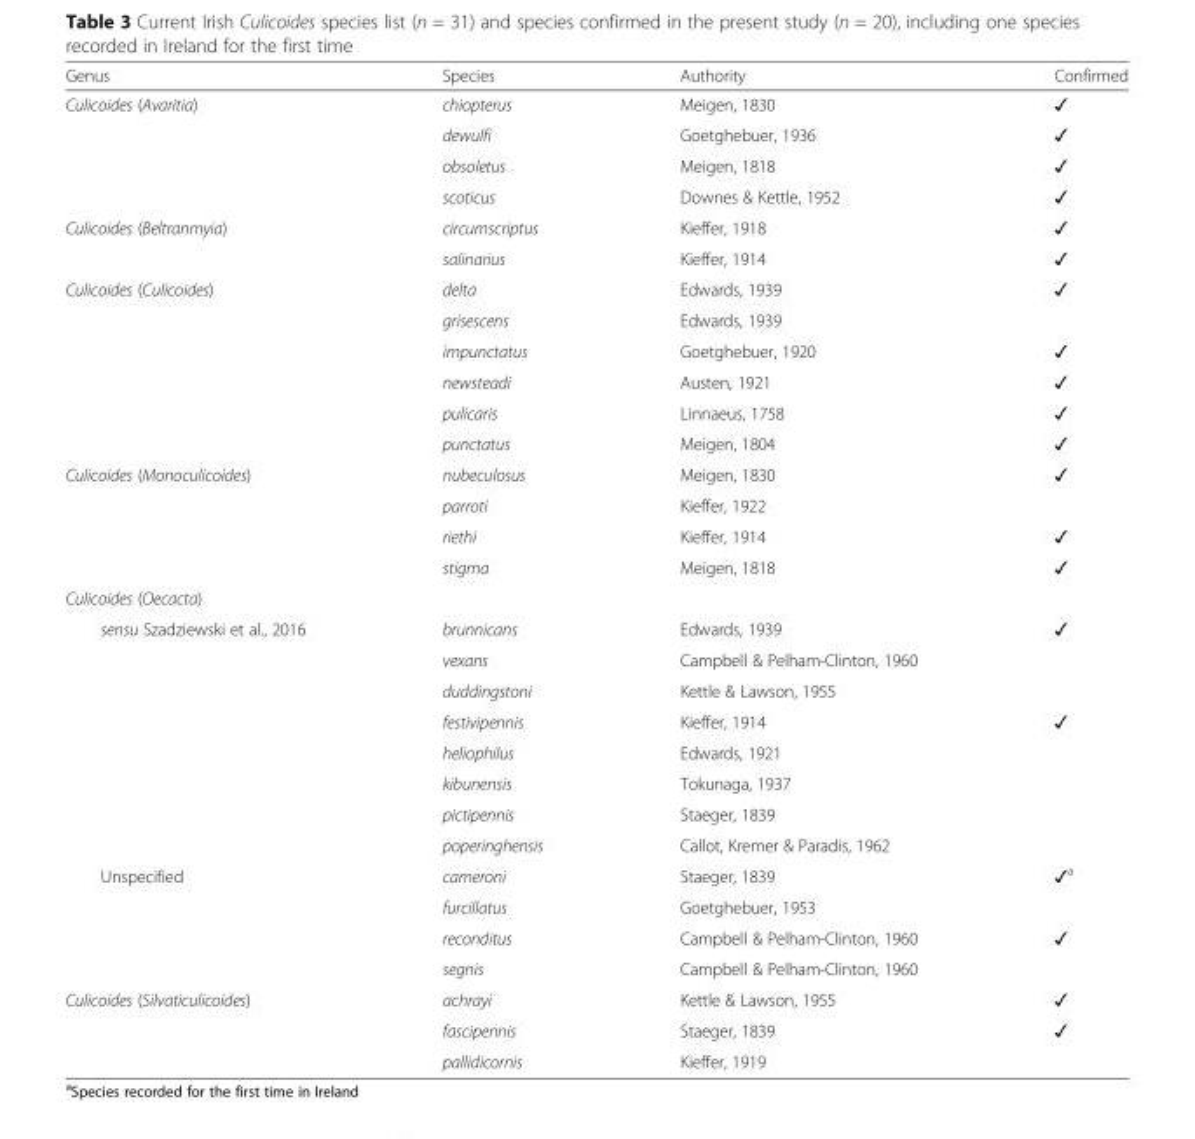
<table><thead><tr><td>Genus</td><td>Species</td><td>Authority</td><td>Confirmed</td></tr></thead><tbody><tr><td rowspan="4">Culicoides (Avaritia)</td><td>chiopterus</td><td>Meigen, 1830</td><td>✓</td></tr><tr><td>dewulfi</td><td>Goetghebuer, 1936</td><td>✓</td></tr><tr><td>obsoletus</td><td>Meigen, 1818</td><td>✓</td></tr><tr><td>scoticus</td><td>Downes &amp; Kettle, 1952</td><td>✓</td></tr><tr><td rowspan="2">Culicoides (Beltranmyia)</td><td>circumscriptus</td><td>Kieffer, 1918</td><td>✓</td></tr><tr><td>salinarius</td><td>Kieffer, 1914</td><td>✓</td></tr><tr><td rowspan="6">Culicoides (Culicoides)</td><td>delta</td><td>Edwards, 1939</td><td>✓</td></tr><tr><td>grisescens</td><td>Edwards, 1939</td><td></td></tr><tr><td>impunctatus</td><td>Goetghebuer, 1920</td><td>✓</td></tr><tr><td>newsteadi</td><td>Austen, 1921</td><td>✓</td></tr><tr><td>pulicaris</td><td>Linnaeus, 1758</td><td>✓</td></tr><tr><td>punctatus</td><td>Meigen, 1804</td><td>✓</td></tr><tr><td rowspan="4">Culicoides (Monoculicoides)</td><td>nubeculosus</td><td>Meigen, 1830</td><td>✓</td></tr><tr><td>parroti</td><td>Kieffer, 1922</td><td></td></tr><tr><td>riethi</td><td>Kieffer, 1914</td><td>✓</td></tr><tr><td>stigma</td><td>Meigen, 1818</td><td>✓</td></tr><tr><td colspan="4">Culicoides (Oecacta)</td></tr><tr><td rowspan="8">sensu Szadziewski et al., 2016</td><td>brunnicans</td><td>Edwards, 1939</td><td>✓</td></tr><tr><td>vexans</td><td>Campbell &amp; Pelham-Clinton, 1960</td><td></td></tr><tr><td>duddingstoni</td><td>Kettle &amp; Lawson, 1955</td><td></td></tr><tr><td>festivipennis</td><td>Kieffer, 1914</td><td>✓</td></tr><tr><td>heliophilus</td><td>Edwards, 1921</td><td></td></tr><tr><td>kibunensis</td><td>Tokunaga, 1937</td><td></td></tr><tr><td>pictipennis</td><td>Staeger, 1839</td><td></td></tr><tr><td>poperinghensis</td><td>Callot, Kremer &amp; Paradis, 1962</td><td></td></tr><tr><td rowspan="4">Unspecified</td><td>cameroni</td><td>Staeger, 1839</td><td>✓<sup>a</sup></td></tr><tr><td>furcillatus</td><td>Goetghebuer, 1953</td><td></td></tr><tr><td>reconditus</td><td>Campbell &amp; Pelham-Clinton, 1960</td><td>✓</td></tr><tr><td>segnis</td><td>Campbell &amp; Pelham-Clinton, 1960</td><td></td></tr><tr><td rowspan="3">Culicoides (Silvaticulicoides)</td><td>achrayi</td><td>Kettle &amp; Lawson, 1955</td><td>✓</td></tr><tr><td>fascipennis</td><td>Staeger, 1839</td><td>✓</td></tr><tr><td>pallidicornis</td><td>Kieffer, 1919</td><td></td></tr></tbody></table>